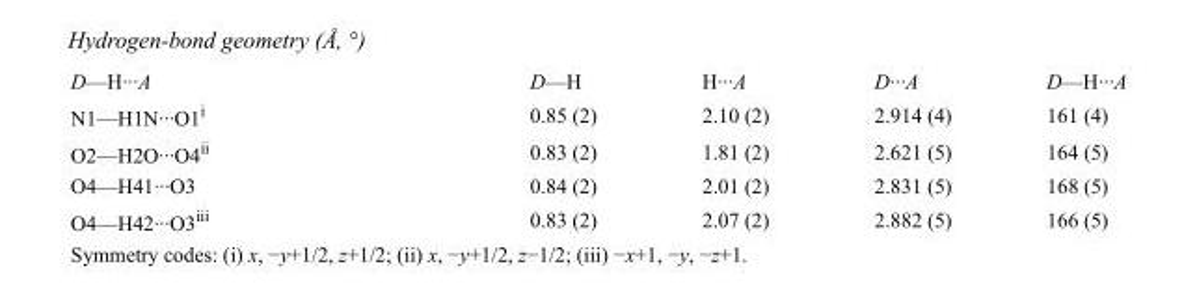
<table><tbody><tr><td>D—H···A</td><td>D—H</td><td>H···A</td><td>D···A</td><td>D—H···A</td></tr><tr><td>N1—H1N···O1<sup>i</sup></td><td>0.85 (2)</td><td>2.10 (2)</td><td>2.914 (4)</td><td>161 (4)</td></tr><tr><td>O2—H2O···O4<sup>ii</sup></td><td>0.83 (2)</td><td>1.81 (2)</td><td>2.621 (5)</td><td>164 (5)</td></tr><tr><td>O4—H41···O3</td><td>0.84 (2)</td><td>2.01 (2)</td><td>2.831 (5)</td><td>168 (5)</td></tr><tr><td>O4—H42···O3<sup>iii</sup></td><td>0.83 (2)</td><td>2.07 (2)</td><td>2.882 (5)</td><td>166 (5)</td></tr></tbody></table>